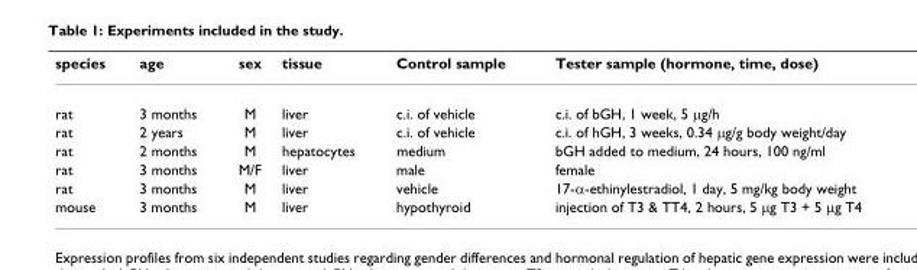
<table><thead><tr><td>species</td><td>age</td><td>sex</td><td>tissue</td><td>Control sample</td><td>Tester sample (hormone, time, dose)</td></tr></thead><tbody><tr><td>rat</td><td>3 months</td><td>M</td><td>liver</td><td>c.i. of vehicle</td><td>c.i. of bGH, 1 week, 5 µg/h</td></tr><tr><td>rat</td><td>2 years</td><td>M</td><td>liver</td><td>c.i. of vehicle</td><td>c.i. of hGH, 3 weeks, 0.34 µg/g body weight/day</td></tr><tr><td>rat</td><td>2 months</td><td>M</td><td>hepatocytes</td><td>medium</td><td>bGH added to medium, 24 hours, 100 ng/ml</td></tr><tr><td>rat</td><td>3 months</td><td>M/F</td><td>liver</td><td>male</td><td>female</td></tr><tr><td>rat</td><td>3 months</td><td>M</td><td>liver</td><td>vehicle</td><td>17-α-ethinylestradiol, 1 day, 5 mg/kg body weight</td></tr><tr><td>mouse</td><td>3 months</td><td>M</td><td>liver</td><td>hypothyroid</td><td>injection of T3 &amp; TT4, 2 hours, 5 µg T3 + 5 µg T4</td></tr></tbody></table>